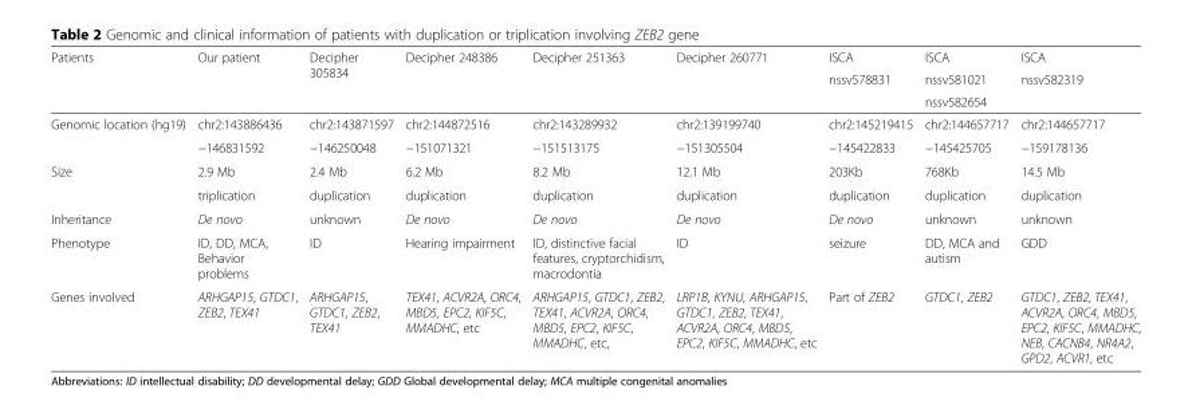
<table><thead><tr><td rowspan="3">Patients</td><td rowspan="3">Our patient</td><td rowspan="3">Decipher 305834</td><td rowspan="3">Decipher 248386</td><td rowspan="3">Decipher 251363</td><td rowspan="3">Decipher 260771</td><td rowspan="3">ISCA nssv578831</td><td rowspan="3">ISCA nssv581021 nssv582654</td><td rowspan="3">ISCA nssv582319</td></tr><tr></tr><tr></tr></thead><tbody><tr><td rowspan="2">Genomic location (hg19)</td><td>chr2:143886436</td><td>chr2:143871597</td><td>chr2:144872516</td><td>chr2:143289932</td><td>chr2:139199740</td><td>chr2:145219415</td><td>chr2:144657717</td><td>chr2:144657717</td></tr><tr><td>−146831592</td><td>−146250048</td><td>−151071321</td><td>−151513175</td><td>−151305504</td><td>−145422833</td><td>−145425705</td><td>−159178136</td></tr><tr><td rowspan="2">Size</td><td>2.9 Mb</td><td>2.4 Mb</td><td>6.2 Mb</td><td>8.2 Mb</td><td>12.1 Mb</td><td>203Kb</td><td>768Kb</td><td>14.5 Mb</td></tr><tr><td>triplication</td><td>duplication</td><td>duplication</td><td>duplication</td><td>duplication</td><td>duplication</td><td>duplication</td><td>duplication</td></tr><tr><td>Inheritance</td><td>De novo</td><td>unknown</td><td>De novo</td><td>De novo</td><td>De novo</td><td>De novo</td><td>unknown</td><td>unknown</td></tr><tr><td>Phenotype</td><td>ID, DD, MCA, Behavior problems</td><td>ID</td><td>Hearing impairment</td><td>ID, distinctive facial features, cryptorchidism, macrodontia</td><td>ID</td><td>seizure</td><td>DD, MCA and autism</td><td>GDD</td></tr><tr><td>Genes involved</td><td>ARHGAP15, GTDC1, ZEB2, TEX41</td><td>ARHGAP15, GTDC1, ZEB2, TEX41</td><td>TEX41, ACVR2A, ORC4, MBD5, EPC2, KIF5C, MMADHC, etc</td><td>ARHGAP15, GTDC1, ZEB2, TEX41, ACVR2A, ORC4, MBD5, EPC2, KIF5C, MMADHC, etc,</td><td>LRP1B, KYNU, ARHGAP15, GTDC1, ZEB2, TEX41, ACVR2A, ORC4, MBD5, EPC2, KIF5C, MMADHC, etc</td><td>Part of ZEB2</td><td>GTDC1, ZEB2</td><td>GTDC1, ZEB2, TEX41, ACVR2A, ORC4, MBD5, EPC2, KIF5C, MMADHC, NEB, CACNB4, NR4A2, GPD2, ACVR1, etc</td></tr></tbody></table>